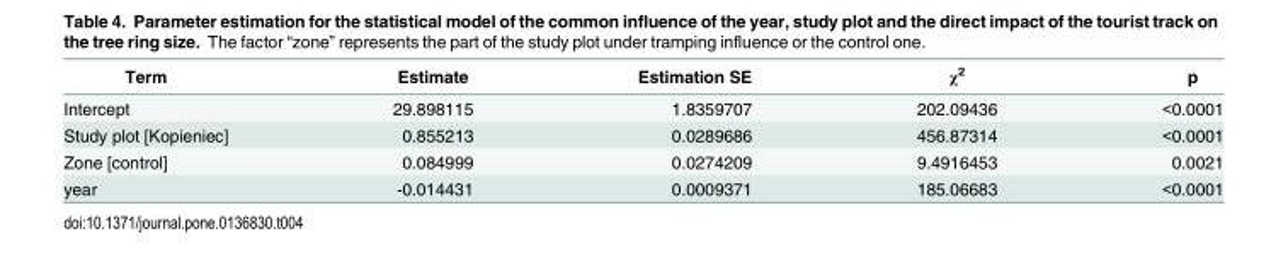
<table><thead><tr><td>Term</td><td>Estimate</td><td>Estimation SE</td><td>χ<sup>2</sup></td><td>p</td></tr></thead><tbody><tr><td>Intercept</td><td>29.898115</td><td>1.8359707</td><td>202.09436</td><td>&lt;0.0001</td></tr><tr><td>Study plot [Kopieniec]</td><td>0.855213</td><td>0.0289686</td><td>456.87314</td><td>&lt;0.0001</td></tr><tr><td>Zone [control]</td><td>0.084999</td><td>0.0274209</td><td>9.4916453</td><td>0.0021</td></tr><tr><td>year</td><td>-0.014431</td><td>0.0009371</td><td>185.06683</td><td>&lt;0.0001</td></tr></tbody></table>